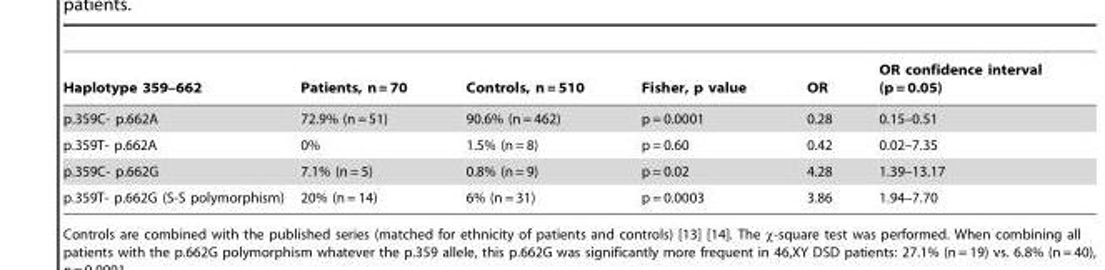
<table><thead><tr><td>Haplotype 359–662</td><td>Patients, n = 70</td><td>Controls, n = 510</td><td>Fisher, p value</td><td>OR</td><td>OR confidence interval (p = 0.05)</td></tr></thead><tbody><tr><td>p.359C- p.662A</td><td>72.9% (n = 51)</td><td>90.6% (n = 462)</td><td>p = 0.0001</td><td>0.28</td><td>0.15–0.51</td></tr><tr><td>p.359T- p.662A</td><td>0%</td><td>1.5% (n = 8)</td><td>p = 0.60</td><td>0.42</td><td>0.02–7.35</td></tr><tr><td>p.359C- p.662G</td><td>7.1% (n = 5)</td><td>0.8% (n = 9)</td><td>p = 0.02</td><td>4.28</td><td>1.39–13.17</td></tr><tr><td>p.359T- p.662G (S-S polymorphism)</td><td>20% (n = 14)</td><td>6% (n = 31)</td><td>p = 0.0003</td><td>3.86</td><td>1.94–7.70</td></tr></tbody></table>